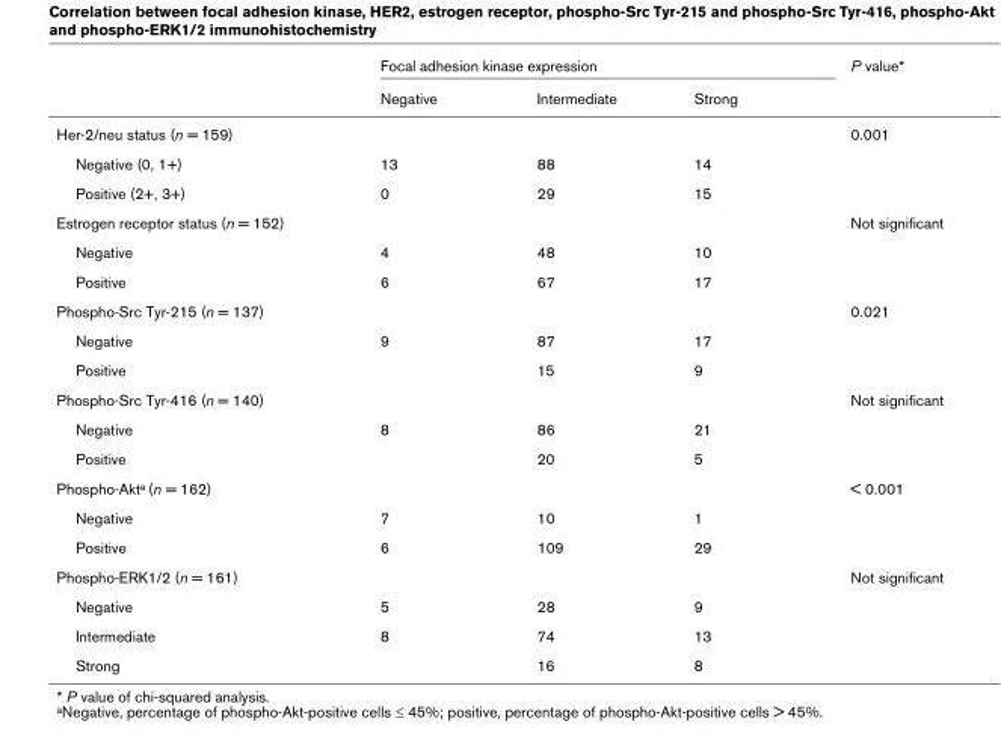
<table><thead><tr><td rowspan="2"></td><td colspan="3">Focal adhesion kinase expression</td><td rowspan="2">P value*</td></tr><tr><td>Negative</td><td>Intermediate</td><td>Strong</td></tr></thead><tbody><tr><td>Her-2/neu status (n = 159)</td><td></td><td></td><td></td><td>0.001</td></tr><tr><td>Negative (0, 1+)</td><td>13</td><td>88</td><td>14</td><td></td></tr><tr><td>Positive (2+, 3+)</td><td>0</td><td>29</td><td>15</td><td></td></tr><tr><td>Estrogen receptor status (n = 152)</td><td></td><td></td><td></td><td>Not significant</td></tr><tr><td>Negative</td><td>4</td><td>48</td><td>10</td><td></td></tr><tr><td>Positive</td><td>6</td><td>67</td><td>17</td><td></td></tr><tr><td>Phospho-Src Tyr-215 (n = 137)</td><td></td><td></td><td></td><td>0.021</td></tr><tr><td>Negative</td><td>9</td><td>87</td><td>17</td><td></td></tr><tr><td>Positive</td><td></td><td>15</td><td>9</td><td></td></tr><tr><td>Phospho-Src Tyr-416 (n = 140)</td><td></td><td></td><td></td><td>Not significant</td></tr><tr><td>Negative</td><td>8</td><td>86</td><td>21</td><td></td></tr><tr><td>Positive</td><td></td><td>20</td><td>5</td><td></td></tr><tr><td>Phospho-Akta (n = 162)</td><td></td><td></td><td></td><td>&lt; 0.001</td></tr><tr><td>Negative</td><td>7</td><td>10</td><td>1</td><td></td></tr><tr><td>Positive</td><td>6</td><td>109</td><td>29</td><td></td></tr><tr><td>Phospho-ERK1/2 (n = 161)</td><td></td><td></td><td></td><td>Not significant</td></tr><tr><td>Negative</td><td>5</td><td>28</td><td>9</td><td></td></tr><tr><td>Intermediate</td><td>8</td><td>74</td><td>13</td><td></td></tr><tr><td>Strong</td><td></td><td>16</td><td>8</td><td></td></tr></tbody></table>